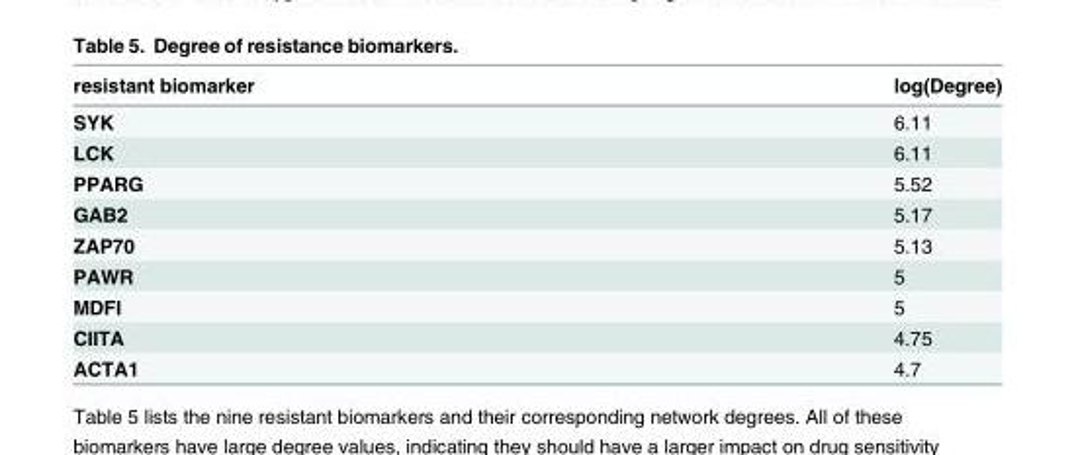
<table><thead><tr><td>resistant biomarker</td><td>log(Degree)</td></tr></thead><tbody><tr><td>SYK</td><td>6.11</td></tr><tr><td>LCK</td><td>6.11</td></tr><tr><td>PPARG</td><td>5.52</td></tr><tr><td>GAB2</td><td>5.17</td></tr><tr><td>ZAP70</td><td>5.13</td></tr><tr><td>PAWR</td><td>5</td></tr><tr><td>MDFI</td><td>5</td></tr><tr><td>CIITA</td><td>4.75</td></tr><tr><td>ACTA1</td><td>4.7</td></tr></tbody></table>